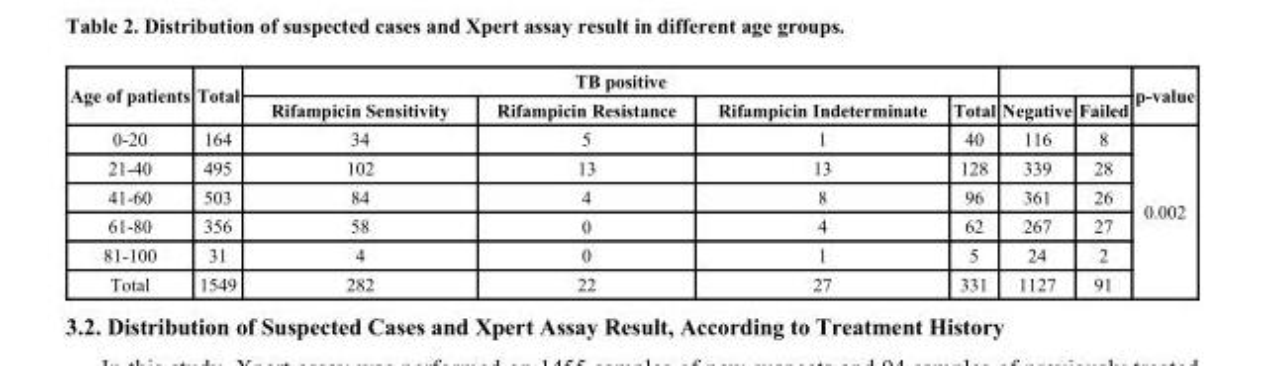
<table><thead><tr><td rowspan="2">Age of patients</td><td rowspan="2">Total</td><td colspan="4">TB positive</td><td rowspan="2">Negative</td><td rowspan="2">Failed</td><td rowspan="2">p-value</td></tr><tr><td>Rifampicin Sensitivity</td><td>Rifampicin Resistance</td><td>Rifampicin Indeterminate</td><td>Total</td></tr></thead><tbody><tr><td>0-20</td><td>164</td><td>34</td><td>5</td><td>1</td><td>40</td><td>116</td><td>8</td><td rowspan="6">0.002</td></tr><tr><td>21-40</td><td>495</td><td>102</td><td>13</td><td>13</td><td>128</td><td>339</td><td>28</td></tr><tr><td>41-60</td><td>503</td><td>84</td><td>4</td><td>8</td><td>96</td><td>361</td><td>26</td></tr><tr><td>61-80</td><td>356</td><td>58</td><td>0</td><td>4</td><td>62</td><td>267</td><td>27</td></tr><tr><td>81-100</td><td>31</td><td>4</td><td>0</td><td>1</td><td>5</td><td>24</td><td>2</td></tr><tr><td>Total</td><td>1549</td><td>282</td><td>22</td><td>27</td><td>331</td><td>1127</td><td>91</td></tr></tbody></table>